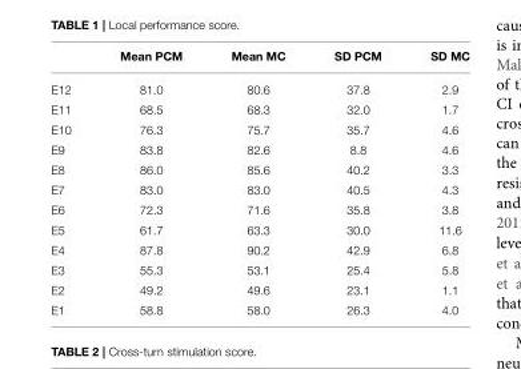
<table><thead><tr><td></td><td>Mean PCM</td><td>Mean MC</td><td>SD PCM</td><td>SD MC</td></tr></thead><tbody><tr><td>E12</td><td>81.0</td><td>80.6</td><td>37.8</td><td>2.9</td></tr><tr><td>E11</td><td>68.5</td><td>68.3</td><td>32.0</td><td>1.7</td></tr><tr><td>E10</td><td>76.3</td><td>75.7</td><td>35.7</td><td>4.6</td></tr><tr><td>E9</td><td>83.8</td><td>82.6</td><td>8.8</td><td>4.6</td></tr><tr><td>E8</td><td>86.0</td><td>85.6</td><td>40.2</td><td>3.3</td></tr><tr><td>E7</td><td>83.0</td><td>83.0</td><td>40.5</td><td>4.3</td></tr><tr><td>E6</td><td>72.3</td><td>71.6</td><td>35.8</td><td>3.8</td></tr><tr><td>E5</td><td>61.7</td><td>63.3</td><td>30.0</td><td>11.6</td></tr><tr><td>E4</td><td>87.8</td><td>90.2</td><td>42.9</td><td>6.8</td></tr><tr><td>E3</td><td>55.3</td><td>53.1</td><td>25.4</td><td>5.8</td></tr><tr><td>E2</td><td>49.2</td><td>49.6</td><td>23.1</td><td>1.1</td></tr><tr><td>E1</td><td>58.8</td><td>58.0</td><td>26.3</td><td>4.0</td></tr></tbody></table>